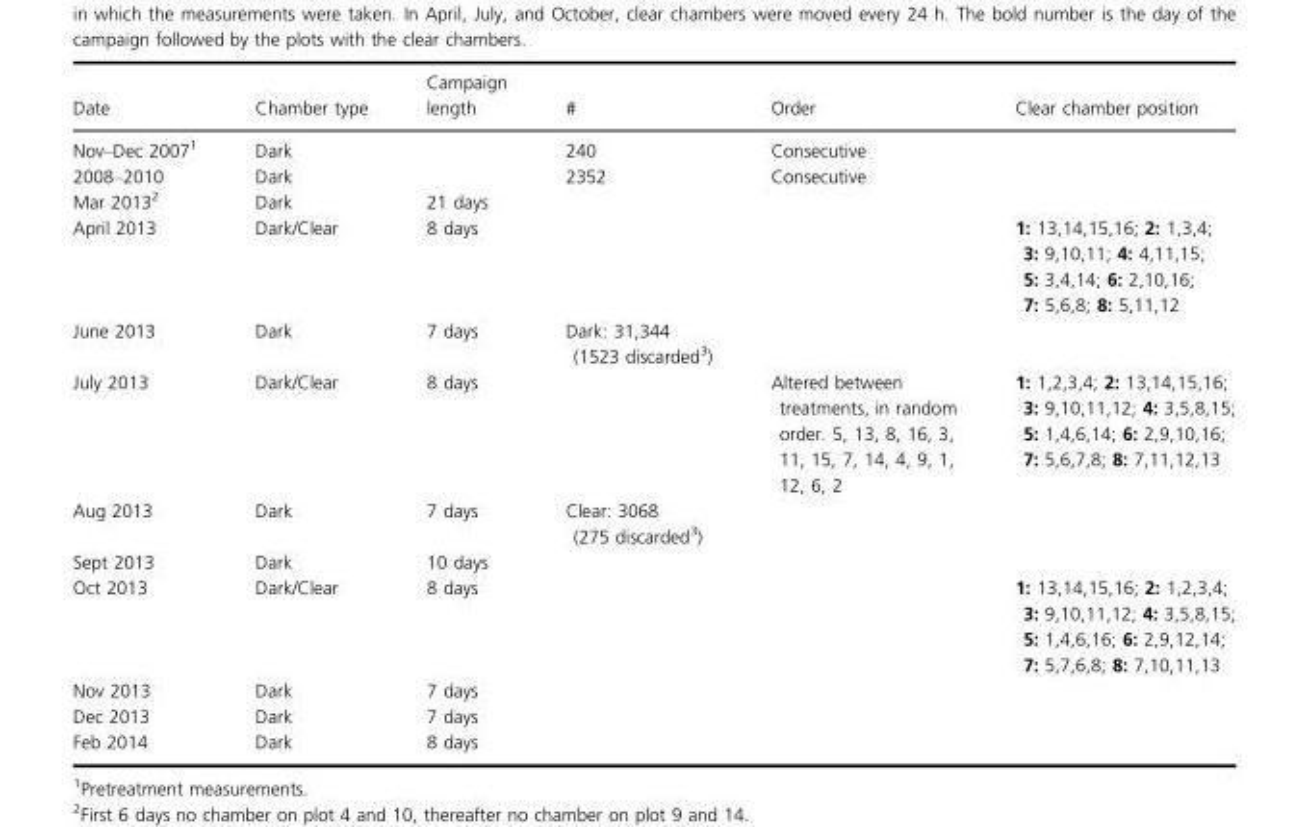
<table><thead><tr><td>Date</td><td>Chamber type</td><td>Campaign length</td><td>#</td><td>Order</td><td>Clear chamber position</td></tr></thead><tbody><tr><td>Nov–Dec 20071</td><td>Dark</td><td></td><td>240</td><td>Consecutive</td><td></td></tr><tr><td>2008–2010</td><td>Dark</td><td></td><td>2352</td><td>Consecutive</td><td></td></tr><tr><td>Mar 20132</td><td>Dark</td><td>21 days</td><td></td><td></td><td></td></tr><tr><td>April 2013</td><td>Dark/Clear</td><td>8 days</td><td></td><td></td><td>1: 13,14,15,16; 2: 1,3,4; 3: 9,10,11; 4: 4,11,15; 5: 3,4,14; 6: 2,10,16; 7: 5,6,8; 8: 5,11,12</td></tr><tr><td>June 2013</td><td>Dark</td><td>7 days</td><td>Dark: 31,344 (1523 discarded3)</td><td></td><td></td></tr><tr><td>July 2013</td><td>Dark/Clear</td><td>8 days</td><td></td><td>Altered between treatments, in random order. 5, 13, 8, 16, 3, 11, 15, 7, 14, 4, 9, 1, 12, 6, 2</td><td>1: 1,2,3,4; 2: 13,14,15,16; 3: 9,10,11,12; 4: 3,5,8,15; 5: 1,4,6,14; 6: 2,9,10,16; 7: 5,6,7,8; 8: 7,11,12,13</td></tr><tr><td>Aug 2013</td><td>Dark</td><td>7 days</td><td>Clear: 3068 (275 discarded3)</td><td></td><td></td></tr><tr><td>Sept 2013</td><td>Dark</td><td>10 days</td><td></td><td></td><td></td></tr><tr><td>Oct 2013</td><td>Dark/Clear</td><td>8 days</td><td></td><td></td><td>1: 13,14,15,16; 2: 1,2,3,4; 3: 9,10,11,12; 4: 3,5,8,15; 5: 1,4,6,16; 6: 2,9,12,14; 7: 5,7,6,8; 8: 7,10,11,13</td></tr><tr><td>Nov 2013</td><td>Dark</td><td>7 days</td><td></td><td></td><td></td></tr><tr><td>Dec 2013</td><td>Dark</td><td>7 days</td><td></td><td></td><td></td></tr><tr><td>Feb 2014</td><td>Dark</td><td>8 days</td><td></td><td></td><td></td></tr></tbody></table>